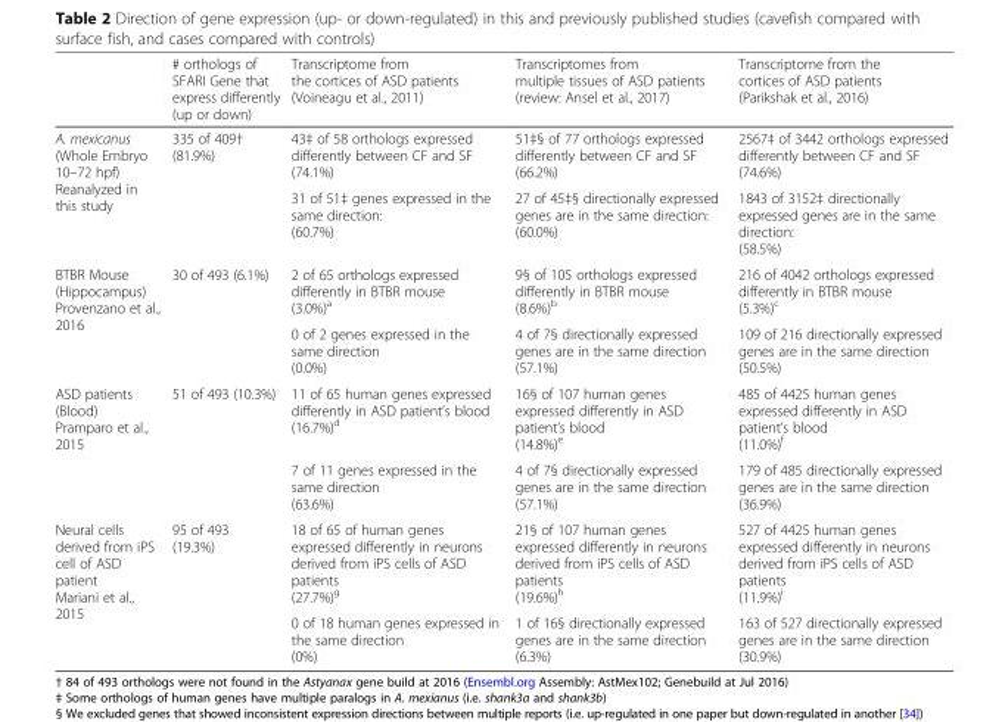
<table><thead><tr><td></td><td># orthologs of SFARI Gene that express differently (up or down)</td><td>Transcriptome from the cortices of ASD patients (Voineagu et al., 2011)</td><td>Transcriptomes from multiple tissues of ASD patients (review: Ansel et al., 2017)</td><td>Transcriptome from the cortices of ASD patients (Parikshak et al., 2016)</td></tr></thead><tbody><tr><td rowspan="2">A. mexicanus (Whole Embryo 10–72 hpf) Reanalyzed in this study</td><td rowspan="2">335 of 409† (81.9%)</td><td>43‡ of 58 orthologs expressed differently between CF and SF (74.1%)</td><td>51‡§ of 77 orthologs expressed differently between CF and SF (66.2%)</td><td>2567‡ of 3442 orthologs expressed differently between CF and SF (74.6%)</td></tr><tr><td>31 of 51‡ genes expressed in the same direction: (60.7%)</td><td>27 of 45‡§ directionally expressed genes are in the same direction: (60.0%)</td><td>1843 of 3152‡ directionally expressed genes are in the same direction: (58.5%)</td></tr><tr><td rowspan="2">BTBR Mouse (Hippocampus) Provenzano et al., 2016</td><td rowspan="2">30 of 493 (6.1%)</td><td>2 of 65 orthologs expressed differently in BTBR mouse (3.0%)<sup>a</sup></td><td>9§ of 105 orthologs expressed differently in BTBR mouse (8.6%)<sup>b</sup></td><td>216 of 4042 orthologs expressed differently in BTBR mouse (5.3%)<sup>c</sup></td></tr><tr><td>0 of 2 genes expressed in the same direction (0.0%)</td><td>4 of 7§ directionally expressed genes are in the same direction (57.1%)</td><td>109 of 216 directionally expressed genes are in the same direction (50.5%)</td></tr><tr><td rowspan="2">ASD patients (Blood) Pramparo et al., 2015</td><td rowspan="2">51 of 493 (10.3%)</td><td>11 of 65 human genes expressed differently in ASD patient’s blood (16.7%)<sup>d</sup></td><td>16§ of 107 human genes expressed differently in ASD patient’s blood (14.8%)<sup>e</sup></td><td>485 of 4425 human genes expressed differently in ASD patient’s blood (11.0%)<sup>f</sup></td></tr><tr><td>7 of 11 genes expressed in the same direction (63.6%)</td><td>4 of 7§ directionally expressed genes are in the same direction (57.1%)</td><td>179 of 485 directionally expressed genes are in the same direction (36.9%)</td></tr><tr><td rowspan="2">Neural cells derived from iPS cell of ASD patient Mariani et al., 2015</td><td rowspan="2">95 of 493 (19.3%)</td><td>18 of 65 of human genes expressed differently in neurons derived from iPS cells of ASD patients (27.7%)<sup>g</sup></td><td>21§ of 107 human genes expressed differently in neurons derived from iPS cells of ASD patients (19.6%)<sup>h</sup></td><td>527 of 4425 human genes expressed differently in neurons derived from iPS cells of ASD patients (11.9%)<sup>i</sup></td></tr><tr><td>0 of 18 human genes expressed in the same direction (0%)</td><td>1 of 16§ directionally expressed genes are in the same direction (6.3%)</td><td>163 of 527 directionally expressed genes are in the same direction (30.9%)</td></tr></tbody></table>